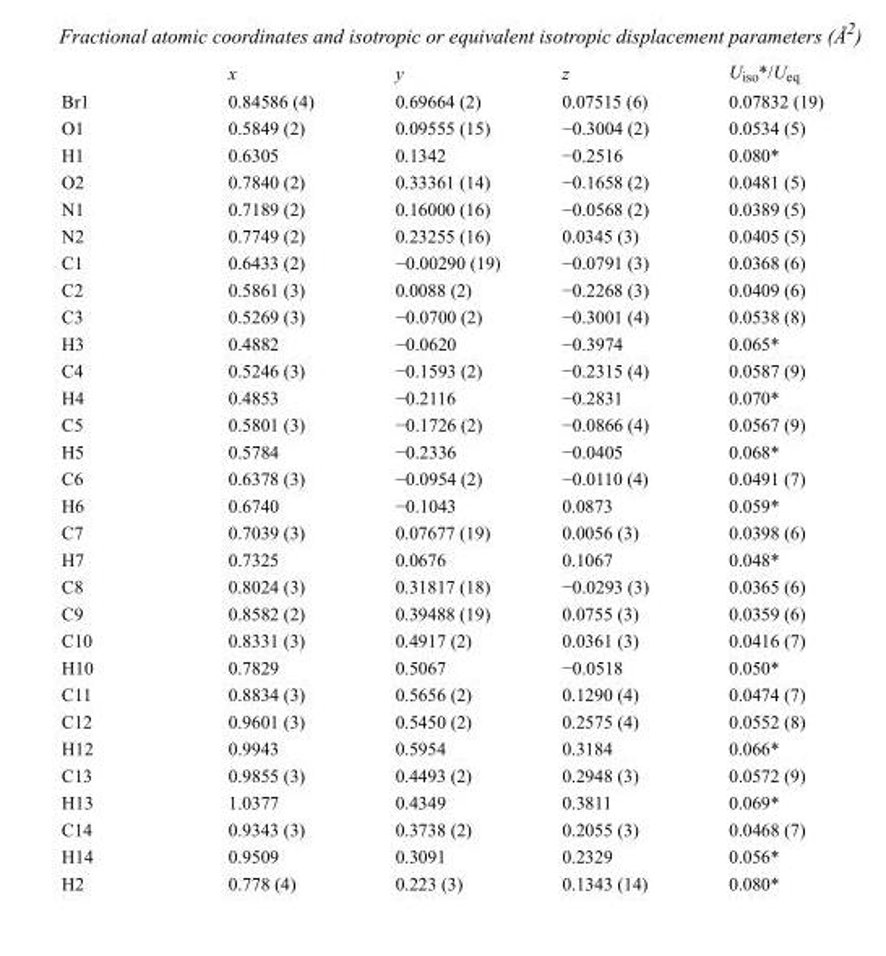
<table><thead><tr><td></td><td>x</td><td>y</td><td>z</td><td>U<sub>iso</sub>*/U<sub>eq</sub></td></tr></thead><tbody><tr><td>Br1</td><td>0.84586 (4)</td><td>0.69664 (2)</td><td>0.07515 (6)</td><td>0.07832 (19)</td></tr><tr><td>O1</td><td>0.5849 (2)</td><td>0.09555 (15)</td><td>−0.3004 (2)</td><td>0.0534 (5)</td></tr><tr><td>H1</td><td>0.6305</td><td>0.1342</td><td>−0.2516</td><td>0.080*</td></tr><tr><td>O2</td><td>0.7840 (2)</td><td>0.33361 (14)</td><td>−0.1658 (2)</td><td>0.0481 (5)</td></tr><tr><td>N1</td><td>0.7189 (2)</td><td>0.16000 (16)</td><td>−0.0568 (2)</td><td>0.0389 (5)</td></tr><tr><td>N2</td><td>0.7749 (2)</td><td>0.23255 (16)</td><td>0.0345 (3)</td><td>0.0405 (5)</td></tr><tr><td>C1</td><td>0.6433 (2)</td><td>−0.00290 (19)</td><td>−0.0791 (3)</td><td>0.0368 (6)</td></tr><tr><td>C2</td><td>0.5861 (3)</td><td>0.0088 (2)</td><td>−0.2268 (3)</td><td>0.0409 (6)</td></tr><tr><td>C3</td><td>0.5269 (3)</td><td>−0.0700 (2)</td><td>−0.3001 (4)</td><td>0.0538 (8)</td></tr><tr><td>H3</td><td>0.4882</td><td>−0.0620</td><td>−0.3974</td><td>0.065*</td></tr><tr><td>C4</td><td>0.5246 (3)</td><td>−0.1593 (2)</td><td>−0.2315 (4)</td><td>0.0587 (9)</td></tr><tr><td>H4</td><td>0.4853</td><td>−0.2116</td><td>−0.2831</td><td>0.070*</td></tr><tr><td>C5</td><td>0.5801 (3)</td><td>−0.1726 (2)</td><td>−0.0866 (4)</td><td>0.0567 (9)</td></tr><tr><td>H5</td><td>0.5784</td><td>−0.2336</td><td>−0.0405</td><td>0.068*</td></tr><tr><td>C6</td><td>0.6378 (3)</td><td>−0.0954 (2)</td><td>−0.0110 (4)</td><td>0.0491 (7)</td></tr><tr><td>H6</td><td>0.6740</td><td>−0.1043</td><td>0.0873</td><td>0.059*</td></tr><tr><td>C7</td><td>0.7039 (3)</td><td>0.07677 (19)</td><td>0.0056 (3)</td><td>0.0398 (6)</td></tr><tr><td>H7</td><td>0.7325</td><td>0.0676</td><td>0.1067</td><td>0.048*</td></tr><tr><td>C8</td><td>0.8024 (3)</td><td>0.31817 (18)</td><td>−0.0293 (3)</td><td>0.0365 (6)</td></tr><tr><td>C9</td><td>0.8582 (2)</td><td>0.39488 (19)</td><td>0.0755 (3)</td><td>0.0359 (6)</td></tr><tr><td>C10</td><td>0.8331 (3)</td><td>0.4917 (2)</td><td>0.0361 (3)</td><td>0.0416 (7)</td></tr><tr><td>H10</td><td>0.7829</td><td>0.5067</td><td>−0.0518</td><td>0.050*</td></tr><tr><td>C11</td><td>0.8834 (3)</td><td>0.5656 (2)</td><td>0.1290 (4)</td><td>0.0474 (7)</td></tr><tr><td>C12</td><td>0.9601 (3)</td><td>0.5450 (2)</td><td>0.2575 (4)</td><td>0.0552 (8)</td></tr><tr><td>H12</td><td>0.9943</td><td>0.5954</td><td>0.3184</td><td>0.066*</td></tr><tr><td>C13</td><td>0.9855 (3)</td><td>0.4493 (2)</td><td>0.2948 (3)</td><td>0.0572 (9)</td></tr><tr><td>H13</td><td>1.0377</td><td>0.4349</td><td>0.3811</td><td>0.069*</td></tr><tr><td>C14</td><td>0.9343 (3)</td><td>0.3738 (2)</td><td>0.2055 (3)</td><td>0.0468 (7)</td></tr><tr><td>H14</td><td>0.9509</td><td>0.3091</td><td>0.2329</td><td>0.056*</td></tr><tr><td>H2</td><td>0.778 (4)</td><td>0.223 (3)</td><td>0.1343 (14)</td><td>0.080*</td></tr></tbody></table>